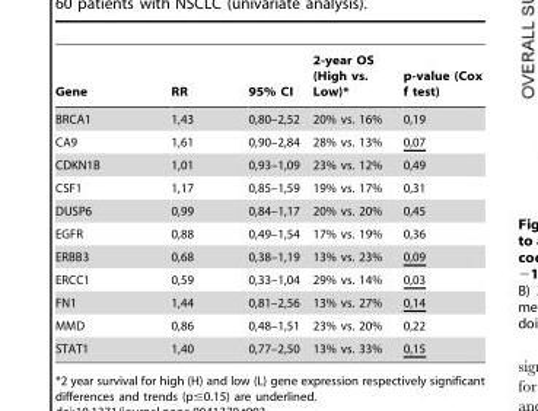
<table><thead><tr><td>Gene</td><td>RR</td><td>95% CI</td><td>2-year OS (High vs. Low)*</td><td>p-value (Cox f test)</td></tr></thead><tbody><tr><td>BRCA1</td><td>1,43</td><td>0,80–2,52</td><td>20% vs. 16%</td><td>0,19</td></tr><tr><td>CA9</td><td>1,61</td><td>0,90–2,84</td><td>28% vs. 13%</td><td>0,07</td></tr><tr><td>CDKN1B</td><td>1,01</td><td>0,93–1,09</td><td>23% vs. 12%</td><td>0,49</td></tr><tr><td>CSF1</td><td>1,17</td><td>0,85–1,59</td><td>19% vs. 17%</td><td>0,31</td></tr><tr><td>DUSP6</td><td>0,99</td><td>0,84–1,17</td><td>20% vs. 20%</td><td>0,45</td></tr><tr><td>EGFR</td><td>0,88</td><td>0,49–1,54</td><td>17% vs. 19%</td><td>0,36</td></tr><tr><td>ERBB3</td><td>0,68</td><td>0,38–1,19</td><td>13% vs. 23%</td><td>0,09</td></tr><tr><td>ERCC1</td><td>0,59</td><td>0,33–1,04</td><td>29% vs. 14%</td><td>0,03</td></tr><tr><td>FN1</td><td>1,44</td><td>0,81–2,56</td><td>13% vs. 27%</td><td>0,14</td></tr><tr><td>MMD</td><td>0,86</td><td>0,48–1,51</td><td>23% vs. 20%</td><td>0,22</td></tr><tr><td>STAT1</td><td>1,40</td><td>0,77–2,50</td><td>13% vs. 33%</td><td>0,15</td></tr></tbody></table>